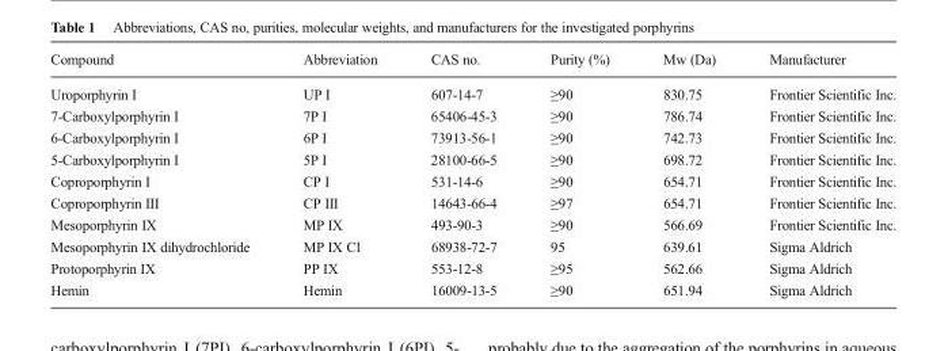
<table><thead><tr><td>Compound</td><td>Abbreviation</td><td>CAS no.</td><td>Purity (%)</td><td>Mw (Da)</td><td>Manufacturer</td></tr></thead><tbody><tr><td>Uroporphyrin I</td><td>UP I</td><td>607-14-7</td><td>≥90</td><td>830.75</td><td>Frontier Scientific Inc.</td></tr><tr><td>7-Carboxylporphyrin I</td><td>7P I</td><td>65406-45-3</td><td>≥90</td><td>786.74</td><td>Frontier Scientific Inc.</td></tr><tr><td>6-Carboxylporphyrin I</td><td>6P I</td><td>73913-56-1</td><td>≥90</td><td>742.73</td><td>Frontier Scientific Inc.</td></tr><tr><td>5-Carboxylporphyrin I</td><td>5P I</td><td>28100-66-5</td><td>≥90</td><td>698.72</td><td>Frontier Scientific Inc.</td></tr><tr><td>Coproporphyrin I</td><td>CP I</td><td>531-14-6</td><td>≥90</td><td>654.71</td><td>Frontier Scientific Inc.</td></tr><tr><td>Coproporphyrin III</td><td>CP III</td><td>14643-66-4</td><td>≥97</td><td>654.71</td><td>Frontier Scientific Inc.</td></tr><tr><td>Mesoporphyrin IX</td><td>MP IX</td><td>493-90-3</td><td>≥90</td><td>566.69</td><td>Frontier Scientific Inc.</td></tr><tr><td>Mesoporphyrin IX dihydrochloride</td><td>MP IX Cl</td><td>68938-72-7</td><td>95</td><td>639.61</td><td>Sigma Aldrich</td></tr><tr><td>Protoporphyrin IX</td><td>PP IX</td><td>553-12-8</td><td>≥95</td><td>562.66</td><td>Sigma Aldrich</td></tr><tr><td>Hemin</td><td>Hemin</td><td>16009-13-5</td><td>≥90</td><td>651.94</td><td>Sigma Aldrich</td></tr></tbody></table>